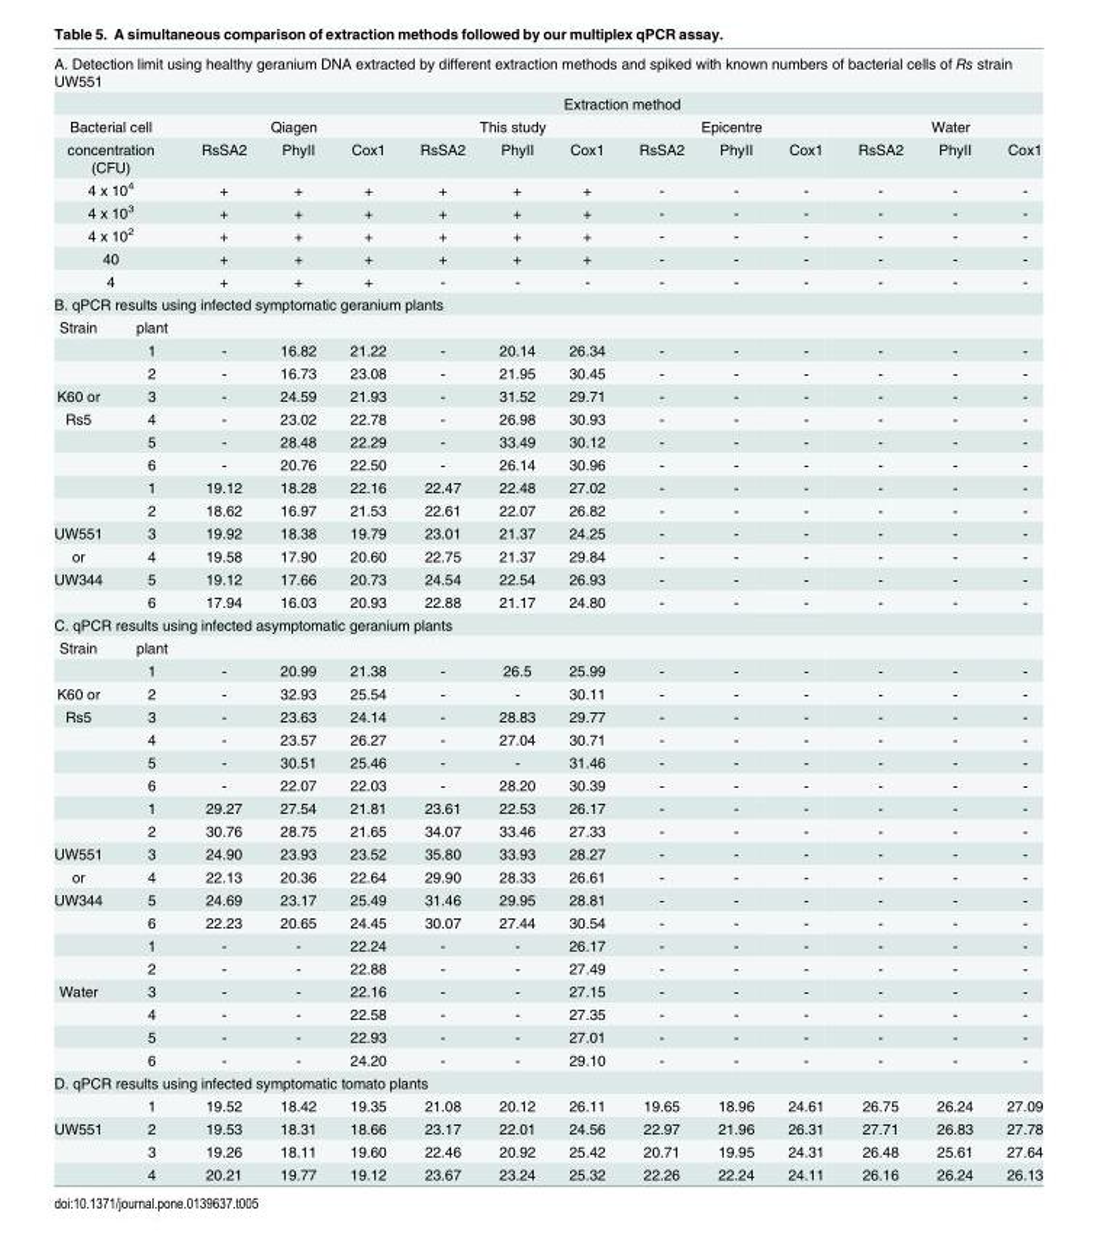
<table><tbody><tr><td colspan="14">A. Detection limit using healthy geranium DNA extracted by different extraction methods and spiked with known numbers of bacterial cells of Rs strain UW551</td></tr><tr><td colspan="2"></td><td colspan="12">Extraction method</td></tr><tr><td colspan="2">Bacterial cell</td><td colspan="3">Qiagen</td><td colspan="3">This study</td><td colspan="3">Epicentre</td><td colspan="3">Water</td></tr><tr><td colspan="2">concentration (CFU)</td><td>RsSA2</td><td>PhyII</td><td>Cox1</td><td>RsSA2</td><td>PhyII</td><td>Cox1</td><td>RsSA2</td><td>PhyII</td><td>Cox1</td><td>RsSA2</td><td>PhyII</td><td>Cox1</td></tr><tr><td colspan="2">4 x 10<sup>4</sup></td><td>+</td><td>+</td><td>+</td><td>+</td><td>+</td><td>+</td><td>-</td><td>-</td><td>-</td><td>-</td><td>-</td><td>-</td></tr><tr><td colspan="2">4 x 10<sup>3</sup></td><td>+</td><td>+</td><td>+</td><td>+</td><td>+</td><td>+</td><td>-</td><td>-</td><td>-</td><td>-</td><td>-</td><td>-</td></tr><tr><td colspan="2">4 x 10<sup>2</sup></td><td>+</td><td>+</td><td>+</td><td>+</td><td>+</td><td>+</td><td>-</td><td>-</td><td>-</td><td>-</td><td>-</td><td>-</td></tr><tr><td colspan="2">40</td><td>+</td><td>+</td><td>+</td><td>+</td><td>+</td><td>+</td><td>-</td><td>-</td><td>-</td><td>-</td><td>-</td><td>-</td></tr><tr><td colspan="2">4</td><td>+</td><td>+</td><td>+</td><td>-</td><td>-</td><td>-</td><td>-</td><td>-</td><td>-</td><td>-</td><td>-</td><td>-</td></tr><tr><td colspan="14">B. qPCR results using infected symptomatic geranium plants</td></tr><tr><td rowspan="3">Strain</td><td>plant</td><td></td><td></td><td></td><td></td><td></td><td></td><td></td><td></td><td></td><td></td><td></td><td></td></tr><tr><td>1</td><td>-</td><td>16.82</td><td>21.22</td><td>-</td><td>20.14</td><td>26.34</td><td>-</td><td>-</td><td>-</td><td>-</td><td>-</td><td>-</td></tr><tr><td>2</td><td>-</td><td>16.73</td><td>23.08</td><td>-</td><td>21.95</td><td>30.45</td><td>-</td><td>-</td><td>-</td><td>-</td><td>-</td><td>-</td></tr><tr><td>K60 or</td><td>3</td><td>-</td><td>24.59</td><td>21.93</td><td>-</td><td>31.52</td><td>29.71</td><td>-</td><td>-</td><td>-</td><td>-</td><td>-</td><td>-</td></tr><tr><td rowspan="5">Rs5</td><td>4</td><td>-</td><td>23.02</td><td>22.78</td><td>-</td><td>26.98</td><td>30.93</td><td>-</td><td>-</td><td>-</td><td>-</td><td>-</td><td>-</td></tr><tr><td>5</td><td>-</td><td>28.48</td><td>22.29</td><td>-</td><td>33.49</td><td>30.12</td><td>-</td><td>-</td><td>-</td><td>-</td><td>-</td><td>-</td></tr><tr><td>6</td><td>-</td><td>20.76</td><td>22.50</td><td>-</td><td>26.14</td><td>30.96</td><td>-</td><td>-</td><td>-</td><td>-</td><td>-</td><td>-</td></tr><tr><td>1</td><td>19.12</td><td>18.28</td><td>22.16</td><td>22.47</td><td>22.48</td><td>27.02</td><td>-</td><td>-</td><td>-</td><td>-</td><td>-</td><td>-</td></tr><tr><td>2</td><td>18.62</td><td>16.97</td><td>21.53</td><td>22.61</td><td>22.07</td><td>26.82</td><td>-</td><td>-</td><td>-</td><td>-</td><td>-</td><td>-</td></tr><tr><td>UW551</td><td>3</td><td>19.92</td><td>18.38</td><td>19.79</td><td>23.01</td><td>21.37</td><td>24.25</td><td>-</td><td>-</td><td>-</td><td>-</td><td>-</td><td>-</td></tr><tr><td>or</td><td>4</td><td>19.58</td><td>17.90</td><td>20.60</td><td>22.75</td><td>21.37</td><td>29.84</td><td>-</td><td>-</td><td>-</td><td>-</td><td>-</td><td>-</td></tr><tr><td rowspan="2">UW344</td><td>5</td><td>19.12</td><td>17.66</td><td>20.73</td><td>24.54</td><td>22.54</td><td>26.93</td><td>-</td><td>-</td><td>-</td><td>-</td><td>-</td><td>-</td></tr><tr><td>6</td><td>17.94</td><td>16.03</td><td>20.93</td><td>22.88</td><td>21.17</td><td>24.80</td><td>-</td><td>-</td><td>-</td><td>-</td><td>-</td><td>-</td></tr><tr><td colspan="14">C. qPCR results using infected asymptomatic geranium plants</td></tr><tr><td rowspan="2">Strain</td><td>plant</td><td></td><td></td><td></td><td></td><td></td><td></td><td></td><td></td><td></td><td></td><td></td><td></td></tr><tr><td>1</td><td>-</td><td>20.99</td><td>21.38</td><td>-</td><td>26.5</td><td>25.99</td><td>-</td><td>-</td><td>-</td><td>-</td><td>-</td><td>-</td></tr><tr><td>K60 or</td><td>2</td><td>-</td><td>32.93</td><td>25.54</td><td>-</td><td>-</td><td>30.11</td><td>-</td><td>-</td><td>-</td><td>-</td><td>-</td><td>-</td></tr><tr><td rowspan="6">Rs5</td><td>3</td><td>-</td><td>23.63</td><td>24.14</td><td>-</td><td>28.83</td><td>29.77</td><td>-</td><td>-</td><td>-</td><td>-</td><td>-</td><td>-</td></tr><tr><td>4</td><td>-</td><td>23.57</td><td>26.27</td><td>-</td><td>27.04</td><td>30.71</td><td>-</td><td>-</td><td>-</td><td>-</td><td>-</td><td>-</td></tr><tr><td>5</td><td>-</td><td>30.51</td><td>25.46</td><td>-</td><td>-</td><td>31.46</td><td>-</td><td>-</td><td>-</td><td>-</td><td>-</td><td>-</td></tr><tr><td>6</td><td>-</td><td>22.07</td><td>22.03</td><td>-</td><td>28.20</td><td>30.39</td><td>-</td><td>-</td><td>-</td><td>-</td><td>-</td><td>-</td></tr><tr><td>1</td><td>29.27</td><td>27.54</td><td>21.81</td><td>23.61</td><td>22.53</td><td>26.17</td><td>-</td><td>-</td><td>-</td><td>-</td><td>-</td><td>-</td></tr><tr><td>2</td><td>30.76</td><td>28.75</td><td>21.65</td><td>34.07</td><td>33.46</td><td>27.33</td><td>-</td><td>-</td><td>-</td><td>-</td><td>-</td><td>-</td></tr><tr><td>UW551</td><td>3</td><td>24.90</td><td>23.93</td><td>23.52</td><td>35.80</td><td>33.93</td><td>28.27</td><td>-</td><td>-</td><td>-</td><td>-</td><td>-</td><td>-</td></tr><tr><td>or</td><td>4</td><td>22.13</td><td>20.36</td><td>22.64</td><td>29.90</td><td>28.33</td><td>26.61</td><td>-</td><td>-</td><td>-</td><td>-</td><td>-</td><td>-</td></tr><tr><td rowspan="4">UW344</td><td>5</td><td>24.69</td><td>23.17</td><td>25.49</td><td>31.46</td><td>29.95</td><td>28.81</td><td>-</td><td>-</td><td>-</td><td>-</td><td>-</td><td>-</td></tr><tr><td>6</td><td>22.23</td><td>20.65</td><td>24.45</td><td>30.07</td><td>27.44</td><td>30.54</td><td>-</td><td>-</td><td>-</td><td>-</td><td>-</td><td>-</td></tr><tr><td>1</td><td>-</td><td>-</td><td>22.24</td><td>-</td><td>-</td><td>26.17</td><td>-</td><td>-</td><td>-</td><td>-</td><td>-</td><td>-</td></tr><tr><td>2</td><td>-</td><td>-</td><td>22.88</td><td>-</td><td>-</td><td>27.49</td><td>-</td><td>-</td><td>-</td><td>-</td><td>-</td><td>-</td></tr><tr><td rowspan="4">Water</td><td>3</td><td>-</td><td>-</td><td>22.16</td><td>-</td><td>-</td><td>27.15</td><td>-</td><td>-</td><td>-</td><td>-</td><td>-</td><td>-</td></tr><tr><td>4</td><td>-</td><td>-</td><td>22.58</td><td>-</td><td>-</td><td>27.35</td><td>-</td><td>-</td><td>-</td><td>-</td><td>-</td><td>-</td></tr><tr><td>5</td><td>-</td><td>-</td><td>22.93</td><td>-</td><td>-</td><td>27.01</td><td>-</td><td>-</td><td>-</td><td>-</td><td>-</td><td>-</td></tr><tr><td>6</td><td>-</td><td>-</td><td>24.20</td><td>-</td><td>-</td><td>29.10</td><td>-</td><td>-</td><td>-</td><td>-</td><td>-</td><td>-</td></tr><tr><td colspan="14">D. qPCR results using infected symptomatic tomato plants</td></tr><tr><td></td><td>1</td><td>19.52</td><td>18.42</td><td>19.35</td><td>21.08</td><td>20.12</td><td>26.11</td><td>19.65</td><td>18.96</td><td>24.61</td><td>26.75</td><td>26.24</td><td>27.09</td></tr><tr><td rowspan="3">UW551</td><td>2</td><td>19.53</td><td>18.31</td><td>18.66</td><td>23.17</td><td>22.01</td><td>24.56</td><td>22.97</td><td>21.96</td><td>26.31</td><td>27.71</td><td>26.83</td><td>27.78</td></tr><tr><td>3</td><td>19.26</td><td>18.11</td><td>19.60</td><td>22.46</td><td>20.92</td><td>25.42</td><td>20.71</td><td>19.95</td><td>24.31</td><td>26.48</td><td>25.61</td><td>27.64</td></tr><tr><td>4</td><td>20.21</td><td>19.77</td><td>19.12</td><td>23.67</td><td>23.24</td><td>25.32</td><td>22.26</td><td>22.24</td><td>24.11</td><td>26.16</td><td>26.24</td><td>26.13</td></tr></tbody></table>